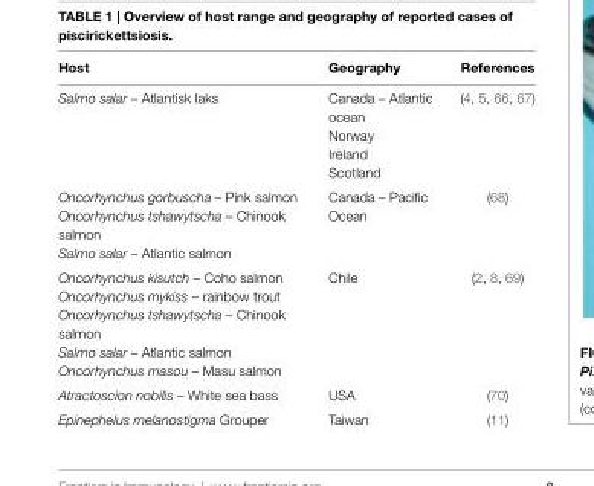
<table><thead><tr><td>Host</td><td>Geography</td><td>References</td></tr></thead><tbody><tr><td rowspan="4">Salmo salar – Atlantisk laks</td><td>Canada – Atlantic ocean</td><td rowspan="4">(4, 5, 66, 67)</td></tr><tr><td>Norway</td></tr><tr><td>Ireland</td></tr><tr><td>Scotland</td></tr><tr><td>Oncorhynchus gorbuscha – Pink salmon</td><td rowspan="3">Canada – Pacific Ocean</td><td rowspan="3">(68)</td></tr><tr><td>Oncorhynchus tshawytscha – Chinook salmon</td></tr><tr><td>Salmo salar – Atlantic salmon</td></tr><tr><td>Oncorhynchus kisutch – Coho salmon</td><td rowspan="5">Chile</td><td rowspan="5">(2, 8, 69)</td></tr><tr><td>Oncorhynchus mykiss – rainbow trout</td></tr><tr><td>Oncorhynchus tshawytscha – Chinook salmon</td></tr><tr><td>Salmo salar – Atlantic salmon</td></tr><tr><td>Oncorhynchus masou – Masu salmon</td></tr><tr><td>Atractoscion nobilis – White sea bass</td><td>USA</td><td>(70)</td></tr><tr><td>Epinephelus melanostigma Grouper</td><td>Taiwan</td><td>(11)</td></tr></tbody></table>